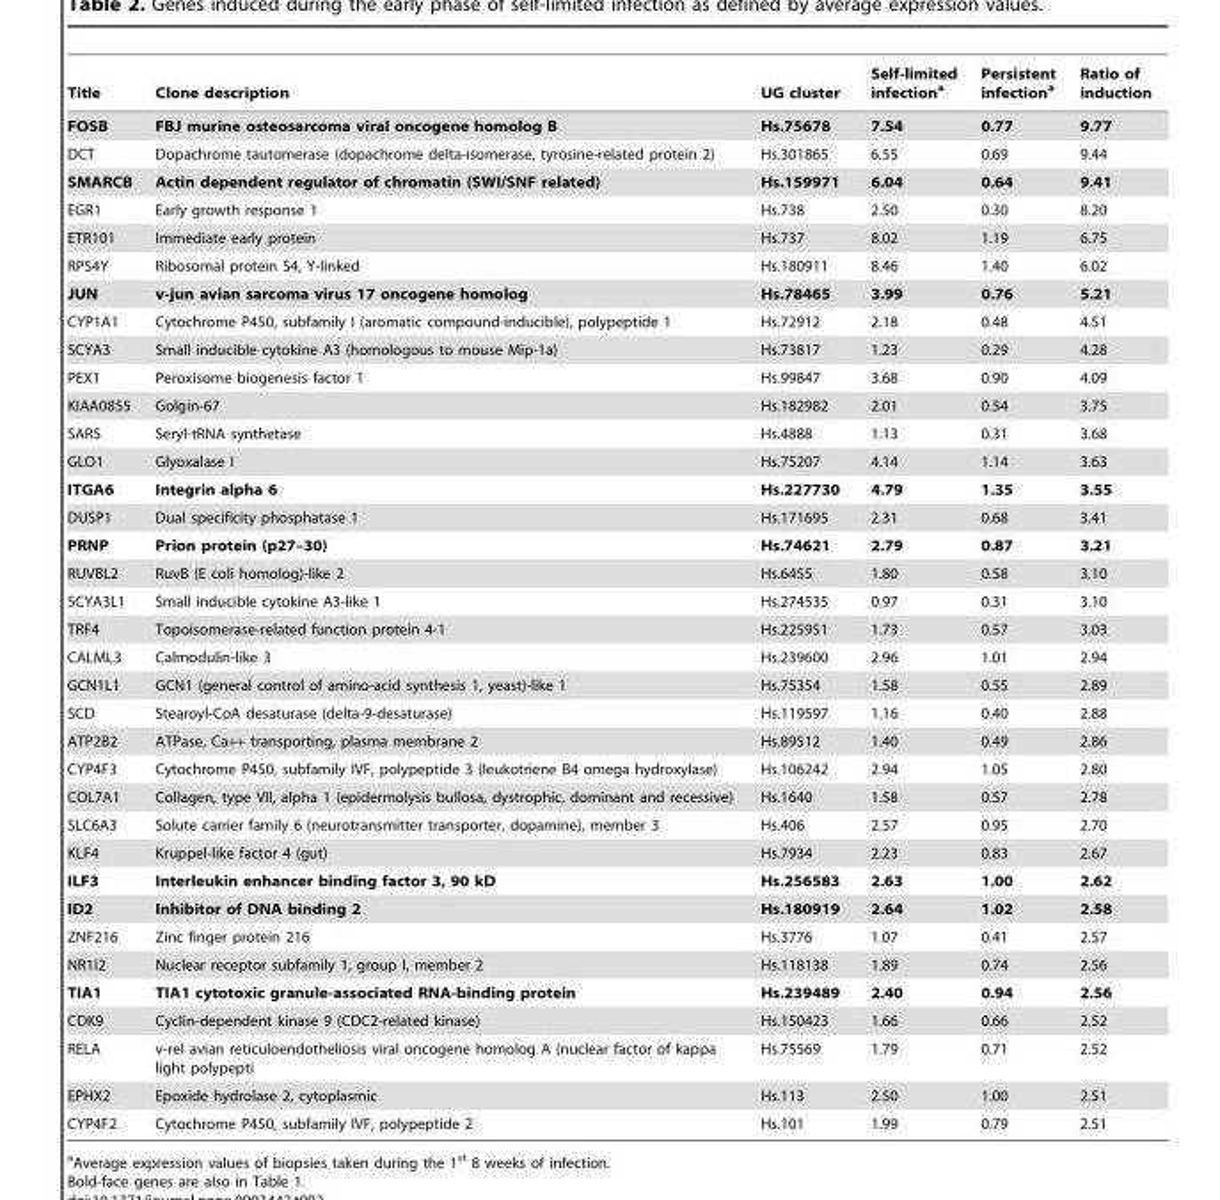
<table><thead><tr><td>Title</td><td>Clone description</td><td>UG cluster</td><td>Self-limited infection<sup>a</sup></td><td>Persistent infection<sup>a</sup></td><td>Ratio of induction</td></tr></thead><tbody><tr><td>FOSB</td><td>FBJ murine osteosarcoma viral oncogene homolog B</td><td>Hs.75678</td><td>7.54</td><td>0.77</td><td>9.77</td></tr><tr><td>DCT</td><td>Dopachrome tautomerase (dopachrome delta-isomerase, tyrosine-related protein 2)</td><td>Hs.301865</td><td>6.55</td><td>0.69</td><td>9.44</td></tr><tr><td>SMARCB</td><td>Actin dependent regulator of chromatin (SWI/SNF related)</td><td>Hs.159971</td><td>6.04</td><td>0.64</td><td>9.41</td></tr><tr><td>EGR1</td><td>Early growth response 1</td><td>Hs.738</td><td>2.50</td><td>0.30</td><td>8.20</td></tr><tr><td>ETR101</td><td>Immediate early protein</td><td>Hs.737</td><td>8.02</td><td>1.19</td><td>6.75</td></tr><tr><td>RPS4Y</td><td>Ribosomal protein S4, Y-linked</td><td>Hs.180911</td><td>8.46</td><td>1.40</td><td>6.02</td></tr><tr><td>JUN</td><td>v-jun avian sarcoma virus 17 oncogene homolog</td><td>Hs.78465</td><td>3.99</td><td>0.76</td><td>5.21</td></tr><tr><td>CYP1A1</td><td>Cytochrome P450, subfamily I (aromatic compound-inducible), polypeptide 1</td><td>Hs.72912</td><td>2.18</td><td>0.48</td><td>4.51</td></tr><tr><td>SCYA3</td><td>Small inducible cytokine A3 (homologous to mouse Mip-1a)</td><td>Hs.73817</td><td>1.23</td><td>0.29</td><td>4.28</td></tr><tr><td>PEX1</td><td>Peroxisome biogenesis factor 1</td><td>Hs.99847</td><td>3.68</td><td>0.90</td><td>4.09</td></tr><tr><td>KIAA0855</td><td>Golgin-67</td><td>Hs.182982</td><td>2.01</td><td>0.54</td><td>3.75</td></tr><tr><td>SARS</td><td>Seryl-tRNA synthetase</td><td>Hs.4888</td><td>1.13</td><td>0.31</td><td>3.68</td></tr><tr><td>GLO1</td><td>Glyoxalase I</td><td>Hs.75207</td><td>4.14</td><td>1.14</td><td>3.63</td></tr><tr><td>ITGA6</td><td>Integrin alpha 6</td><td>Hs.227730</td><td>4.79</td><td>1.35</td><td>3.55</td></tr><tr><td>DUSP1</td><td>Dual specificity phosphatase 1</td><td>Hs.171695</td><td>2.31</td><td>0.68</td><td>3.41</td></tr><tr><td>PRNP</td><td>Prion protein (p27–30)</td><td>Hs.74621</td><td>2.79</td><td>0.87</td><td>3.21</td></tr><tr><td>RUVBL2</td><td>RuvB (E coli homolog)-like 2</td><td>Hs.6455</td><td>1.80</td><td>0.58</td><td>3.10</td></tr><tr><td>SCYA3L1</td><td>Small inducible cytokine A3-like 1</td><td>Hs.274535</td><td>0.97</td><td>0.31</td><td>3.10</td></tr><tr><td>TRF4</td><td>Topoisomerase-related function protein 4-1</td><td>Hs.225951</td><td>1.73</td><td>0.57</td><td>3.03</td></tr><tr><td>CALML3</td><td>Calmodulin-like 3</td><td>Hs.239600</td><td>2.96</td><td>1.01</td><td>2.94</td></tr><tr><td>GCN1L1</td><td>GCN1 (general control of amino-acid synthesis 1, yeast)-like 1</td><td>Hs.75354</td><td>1.58</td><td>0.55</td><td>2.89</td></tr><tr><td>SCD</td><td>Stearoyl-CoA desaturase (delta-9-desaturase)</td><td>Hs.119597</td><td>1.16</td><td>0.40</td><td>2.88</td></tr><tr><td>ATP2B2</td><td>ATPase, Ca++ transporting, plasma membrane 2</td><td>Hs.89512</td><td>1.40</td><td>0.49</td><td>2.86</td></tr><tr><td>CYP4F3</td><td>Cytochrome P450, subfamily IVF, polypeptide 3 (leukotriene B4 omega hydroxylase)</td><td>Hs.106242</td><td>2.94</td><td>1.05</td><td>2.80</td></tr><tr><td>COL7A1</td><td>Collagen, type VII, alpha 1 (epidermolysis bullosa, dystrophic, dominant and recessive)</td><td>Hs.1640</td><td>1.58</td><td>0.57</td><td>2.78</td></tr><tr><td>SLC6A3</td><td>Solute carrier family 6 (neurotransmitter transporter, dopamine), member 3</td><td>Hs.406</td><td>2.57</td><td>0.95</td><td>2.70</td></tr><tr><td>KLF4</td><td>Kruppel-like factor 4 (gut)</td><td>Hs.7934</td><td>2.23</td><td>0.83</td><td>2.67</td></tr><tr><td>ILF3</td><td>Interleukin enhancer binding factor 3, 90 kD</td><td>Hs.256583</td><td>2.63</td><td>1.00</td><td>2.62</td></tr><tr><td>ID2</td><td>Inhibitor of DNA binding 2</td><td>Hs.180919</td><td>2.64</td><td>1.02</td><td>2.58</td></tr><tr><td>ZNF216</td><td>Zinc finger protein 216</td><td>Hs.3776</td><td>1.07</td><td>0.41</td><td>2.57</td></tr><tr><td>NR1I2</td><td>Nuclear receptor subfamily 1, group I, member 2</td><td>Hs.118138</td><td>1.89</td><td>0.74</td><td>2.56</td></tr><tr><td>TIA1</td><td>TIA1 cytotoxic granule-associated RNA-binding protein</td><td>Hs.239489</td><td>2.40</td><td>0.94</td><td>2.56</td></tr><tr><td>CDK9</td><td>Cyclin-dependent kinase 9 (CDC2-related kinase)</td><td>Hs.150423</td><td>1.66</td><td>0.66</td><td>2.52</td></tr><tr><td>RELA</td><td>v-rel avian reticuloendotheliosis viral oncogene homolog A (nuclear factor of kappa light polypepti</td><td>Hs.75569</td><td>1.79</td><td>0.71</td><td>2.52</td></tr><tr><td>EPHX2</td><td>Epoxide hydrolase 2, cytoplasmic</td><td>Hs.113</td><td>2.50</td><td>1.00</td><td>2.51</td></tr><tr><td>CYP4F2</td><td>Cytochrome P450, subfamily IVF, polypeptide 2</td><td>Hs.101</td><td>1.99</td><td>0.79</td><td>2.51</td></tr></tbody></table>